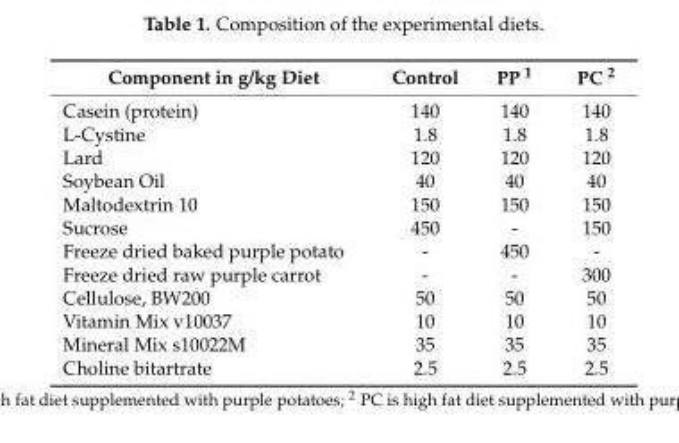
<table><thead><tr><td>Component in g/kg Diet</td><td>Control</td><td>PP <sup>1</sup></td><td>PC <sup>2</sup></td></tr></thead><tbody><tr><td>Casein (protein)</td><td>140</td><td>140</td><td>140</td></tr><tr><td>L-Cystine</td><td>1.8</td><td>1.8</td><td>1.8</td></tr><tr><td>Lard</td><td>120</td><td>120</td><td>120</td></tr><tr><td>Soybean Oil</td><td>40</td><td>40</td><td>40</td></tr><tr><td>Maltodextrin 10</td><td>150</td><td>150</td><td>150</td></tr><tr><td>Sucrose</td><td>450</td><td>-</td><td>150</td></tr><tr><td>Freeze dried baked purple potato</td><td>-</td><td>450</td><td>-</td></tr><tr><td>Freeze dried raw purple carrot</td><td>-</td><td>-</td><td>300</td></tr><tr><td>Cellulose, BW200</td><td>50</td><td>50</td><td>50</td></tr><tr><td>Vitamin Mix v10037</td><td>10</td><td>10</td><td>10</td></tr><tr><td>Mineral Mix s10022M</td><td>35</td><td>35</td><td>35</td></tr><tr><td>Choline bitartrate</td><td>2.5</td><td>2.5</td><td>2.5</td></tr></tbody></table>